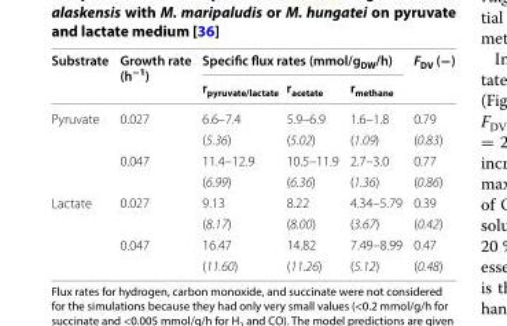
<table><thead><tr><td rowspan="2">Substrate</td><td rowspan="2">Growth rate (h<sup>−1</sup>)</td><td colspan="3">Specific flux rates (mmol/g<sub>DW</sub>/h)</td><td rowspan="2">F<sub>DV</sub> (−)</td></tr><tr><td>r<sub>pyruvate/lactate</sub></td><td>r<sub>acetate</sub></td><td>r<sub>methane</sub></td></tr></thead><tbody><tr><td rowspan="4">Pyruvate</td><td rowspan="2">0.027</td><td>6.6–7.4</td><td>5.9–6.9</td><td>1.6–1.8</td><td>0.79</td></tr><tr><td>(5.36)</td><td>(5.02)</td><td>(1.09)</td><td>(0.83)</td></tr><tr><td rowspan="2">0.047</td><td>11.4–12.9</td><td>10.5–11.9</td><td>2.7–3.0</td><td>0.77</td></tr><tr><td>(6.99)</td><td>(6.36)</td><td>(1.36)</td><td>(0.86)</td></tr><tr><td rowspan="4">Lactate</td><td rowspan="2">0.027</td><td>9.13</td><td>8.22</td><td>4.34–5.79</td><td>0.39</td></tr><tr><td>(8.17)</td><td>(8.00)</td><td>(3.67)</td><td>(0.42)</td></tr><tr><td rowspan="2">0.047</td><td>16.47</td><td>14.82</td><td>7.49–8.99</td><td>0.47</td></tr><tr><td>(11.60)</td><td>(11.26)</td><td>(5.12)</td><td>(0.48)</td></tr></tbody></table>